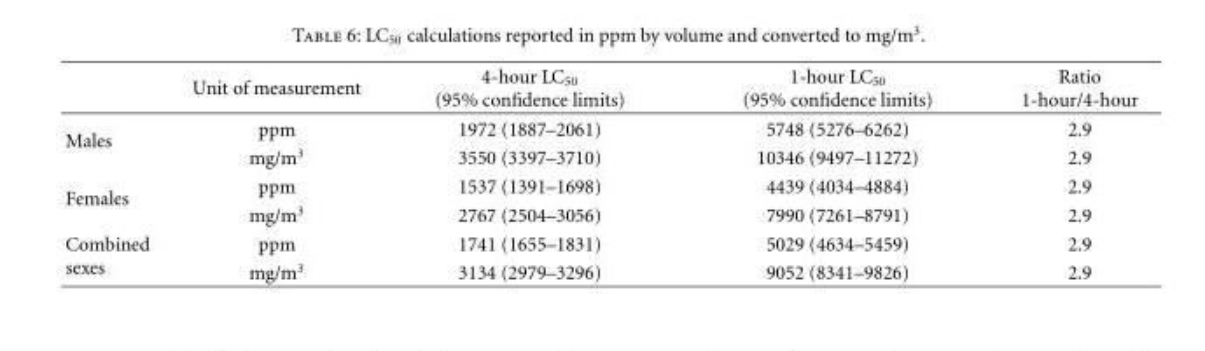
<table><thead><tr><td></td><td>Unit of measurement</td><td>4-hour LC<sub>50</sub> (95% confidence limits)</td><td>1-hour LC<sub>50</sub> (95% confidence limits)</td><td>Ratio 1-hour/4-hour</td></tr></thead><tbody><tr><td rowspan="2">Males</td><td>ppm</td><td>1972 (1887–2061)</td><td>5748 (5276–6262)</td><td>2.9</td></tr><tr><td>mg/m<sup>3</sup></td><td>3550 (3397–3710)</td><td>10346 (9497–11272)</td><td>2.9</td></tr><tr><td rowspan="2">Females</td><td>ppm</td><td>1537 (1391–1698)</td><td>4439 (4034–4884)</td><td>2.9</td></tr><tr><td>mg/m<sup>3</sup></td><td>2767 (2504–3056)</td><td>7990 (7261–8791)</td><td>2.9</td></tr><tr><td rowspan="2">Combined sexes</td><td>ppm</td><td>1741 (1655–1831)</td><td>5029 (4634–5459)</td><td>2.9</td></tr><tr><td>mg/m<sup>3</sup></td><td>3134 (2979–3296)</td><td>9052 (8341–9826)</td><td>2.9</td></tr></tbody></table>